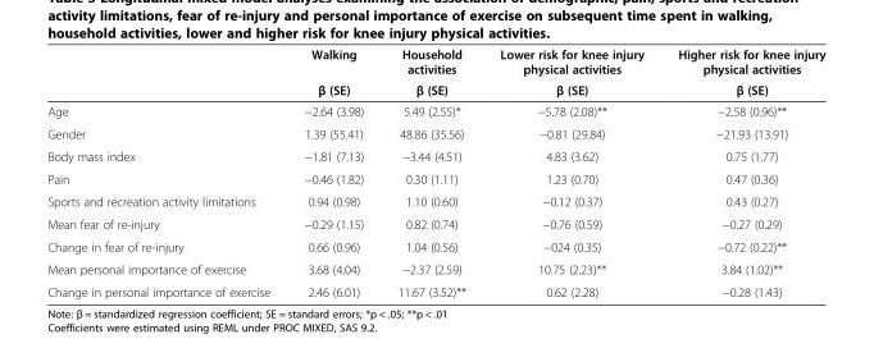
<table><thead><tr><td rowspan="2"></td><td rowspan="2">Walking β (SE)</td><td rowspan="2">Household activities β (SE)</td><td rowspan="2">Lower risk for knee injury physical activities β (SE)</td><td rowspan="2">Higher risk for knee injury physical activities β (SE)</td></tr><tr></tr></thead><tbody><tr><td>Age</td><td>−2.64 (3.98)</td><td>5.49 (2.55)*</td><td>−5.78 (2.08)**</td><td>−2.58 (0.96)**</td></tr><tr><td>Gender</td><td>1.39 (55.41)</td><td>48.86 (35.56)</td><td>−0.81 (29.84)</td><td>−21.93 (13.91)</td></tr><tr><td>Body mass index</td><td>−1.81 (7.13)</td><td>−3.44 (4.51)</td><td>4.83 (3.62)</td><td>0.75 (1.77)</td></tr><tr><td>Pain</td><td>−0.46 (1.82)</td><td>0.30 (1.11)</td><td>1.23 (0.70)</td><td>0.47 (0.36)</td></tr><tr><td>Sports and recreation activity limitations</td><td>0.94 (0.98)</td><td>1.10 (0.60)</td><td>−0.12 (0.37)</td><td>0.43 (0.27)</td></tr><tr><td>Mean fear of re-injury</td><td>−0.29 (1.15)</td><td>0.82 (0.74)</td><td>−0.76 (0.59)</td><td>−0.27 (0.29)</td></tr><tr><td>Change in fear of re-injury</td><td>0.66 (0.96)</td><td>1.04 (0.56)</td><td>−024 (0.35)</td><td>−0.72 (0.22)**</td></tr><tr><td>Mean personal importance of exercise</td><td>3.68 (4.04)</td><td>−2.37 (2.59)</td><td>10.75 (2.23)**</td><td>3.84 (1.02)**</td></tr><tr><td>Change in personal importance of exercise</td><td>2.46 (6.01)</td><td>11.67 (3.52)**</td><td>0.62 (2.28)</td><td>−0.28 (1.43)</td></tr></tbody></table>